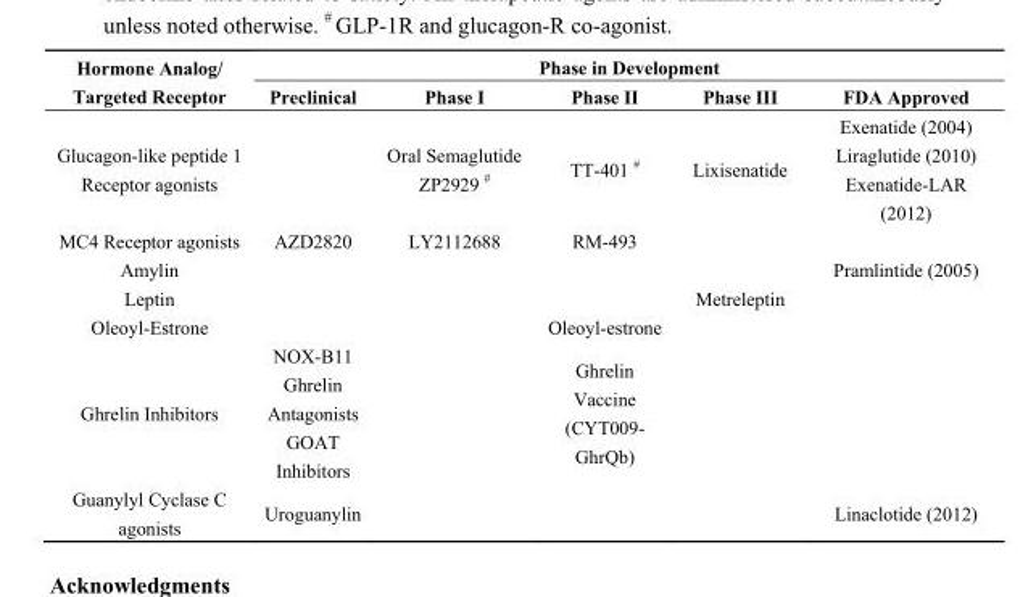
<table><thead><tr><td rowspan="2">Hormone Analog/ Targeted Receptor</td><td colspan="5">Phase in Development</td></tr><tr><td>Preclinical</td><td>Phase I</td><td>Phase II</td><td>Phase III</td><td>FDA Approved</td></tr></thead><tbody><tr><td>Glucagon-like peptide 1 Receptor agonists</td><td></td><td>Oral Semaglutide ZP2929 <sup>#</sup></td><td>TT-401 <sup>#</sup></td><td>Lixisenatide</td><td>Exenatide (2004) Liraglutide (2010) Exenatide-LAR (2012)</td></tr><tr><td>MC4 Receptor agonists</td><td>AZD2820</td><td>LY2112688</td><td>RM-493</td><td></td><td></td></tr><tr><td>Amylin</td><td></td><td></td><td></td><td></td><td>Pramlintide (2005)</td></tr><tr><td>Leptin</td><td></td><td></td><td></td><td>Metreleptin</td><td></td></tr><tr><td>Oleoyl-Estrone</td><td></td><td></td><td>Oleoyl-estrone</td><td></td><td></td></tr><tr><td>Ghrelin Inhibitors</td><td>NOX-B11 Ghrelin Antagonists GOAT Inhibitors</td><td></td><td>Ghrelin Vaccine (CYT009- GhrQb)</td><td></td><td></td></tr><tr><td>Guanylyl Cyclase C agonists</td><td>Uroguanylin</td><td></td><td></td><td></td><td>Linaclotide (2012)</td></tr></tbody></table>